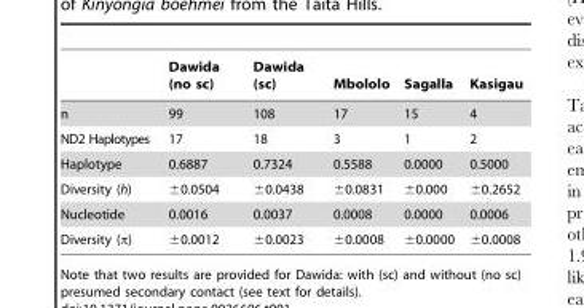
<table><thead><tr><td></td><td>Dawida (no sc)</td><td>Dawida (sc)</td><td>Mbololo</td><td>Sagalla</td><td>Kasigau</td></tr></thead><tbody><tr><td>n</td><td>99</td><td>108</td><td>17</td><td>15</td><td>4</td></tr><tr><td>ND2 Haplotypes</td><td>17</td><td>18</td><td>3</td><td>1</td><td>2</td></tr><tr><td>Haplotype</td><td>0.6887</td><td>0.7324</td><td>0.5588</td><td>0.0000</td><td>0.5000</td></tr><tr><td>Diversity (h)</td><td>±0.0504</td><td>±0.0438</td><td>±0.0831</td><td>±0.000</td><td>±0.2652</td></tr><tr><td>Nucleotide</td><td>0.0016</td><td>0.0037</td><td>0.0008</td><td>0.0000</td><td>0.0006</td></tr><tr><td>Diversity (π)</td><td>±0.0012</td><td>±0.0023</td><td>±0.0008</td><td>±0.0000</td><td>±0.0008</td></tr></tbody></table>